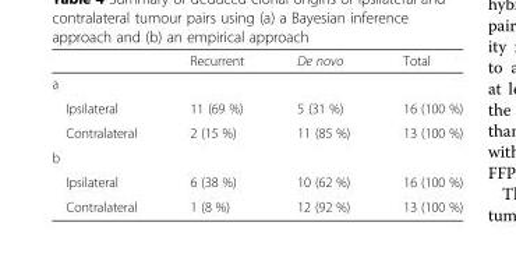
<table><thead><tr><td></td><td>Recurrent</td><td>De novo</td><td>Total</td></tr></thead><tbody><tr><td colspan="4">a</td></tr><tr><td>Ipsilateral</td><td>11 (69 %)</td><td>5 (31 %)</td><td>16 (100 %)</td></tr><tr><td>Contralateral</td><td>2 (15 %)</td><td>11 (85 %)</td><td>13 (100 %)</td></tr><tr><td colspan="4">b</td></tr><tr><td>Ipsilateral</td><td>6 (38 %)</td><td>10 (62 %)</td><td>16 (100 %)</td></tr><tr><td>Contralateral</td><td>1 (8 %)</td><td>12 (92 %)</td><td>13 (100 %)</td></tr></tbody></table>